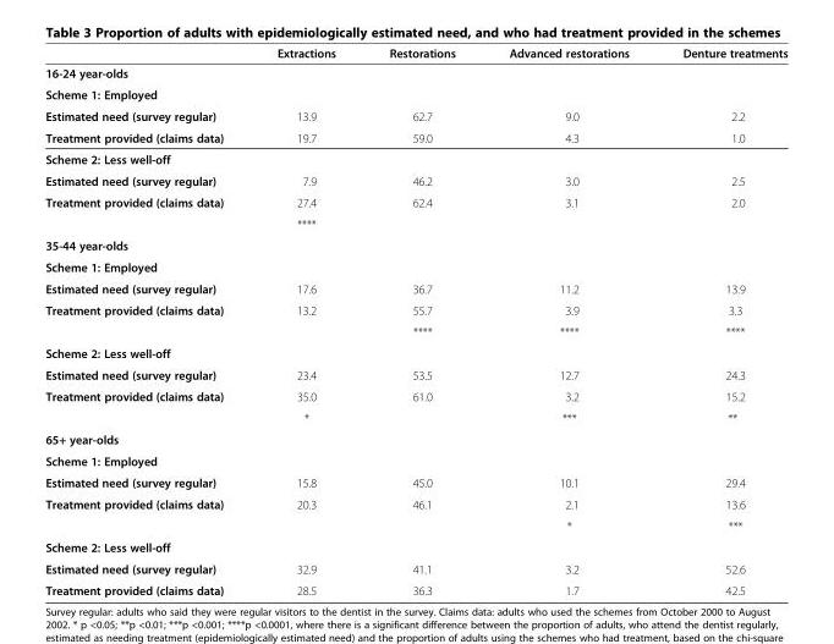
<table><thead><tr><td></td><td>Extractions</td><td>Restorations</td><td>Advanced restorations</td><td>Denture treatments</td></tr></thead><tbody><tr><td colspan="5">16-24 year-olds</td></tr><tr><td colspan="5">Scheme 1: Employed</td></tr><tr><td>Estimated need (survey regular)</td><td>13.9</td><td>62.7</td><td>9.0</td><td>2.2</td></tr><tr><td>Treatment provided (claims data)</td><td>19.7</td><td>59.0</td><td>4.3</td><td>1.0</td></tr><tr><td colspan="5">Scheme 2: Less well-off</td></tr><tr><td>Estimated need (survey regular)</td><td>7.9</td><td>46.2</td><td>3.0</td><td>2.5</td></tr><tr><td rowspan="2">Treatment provided (claims data)</td><td>27.4</td><td>62.4</td><td>3.1</td><td>2.0</td></tr><tr><td>****</td><td></td><td></td><td></td></tr><tr><td colspan="5">35-44 year-olds</td></tr><tr><td colspan="5">Scheme 1: Employed</td></tr><tr><td>Estimated need (survey regular)</td><td>17.6</td><td>36.7</td><td>11.2</td><td>13.9</td></tr><tr><td rowspan="2">Treatment provided (claims data)</td><td>13.2</td><td>55.7</td><td>3.9</td><td>3.3</td></tr><tr><td></td><td>****</td><td>****</td><td>****</td></tr><tr><td colspan="5">Scheme 2: Less well-off</td></tr><tr><td>Estimated need (survey regular)</td><td>23.4</td><td>53.5</td><td>12.7</td><td>24.3</td></tr><tr><td rowspan="2">Treatment provided (claims data)</td><td>35.0</td><td>61.0</td><td>3.2</td><td>15.2</td></tr><tr><td>*</td><td></td><td>***</td><td>**</td></tr><tr><td colspan="5">65+ year-olds</td></tr><tr><td colspan="5">Scheme 1: Employed</td></tr><tr><td>Estimated need (survey regular)</td><td>15.8</td><td>45.0</td><td>10.1</td><td>29.4</td></tr><tr><td rowspan="2">Treatment provided (claims data)</td><td>20.3</td><td>46.1</td><td>2.1</td><td>13.6</td></tr><tr><td></td><td></td><td>*</td><td>***</td></tr><tr><td colspan="5">Scheme 2: Less well-off</td></tr><tr><td>Estimated need (survey regular)</td><td>32.9</td><td>41.1</td><td>3.2</td><td>52.6</td></tr><tr><td>Treatment provided (claims data)</td><td>28.5</td><td>36.3</td><td>1.7</td><td>42.5</td></tr></tbody></table>